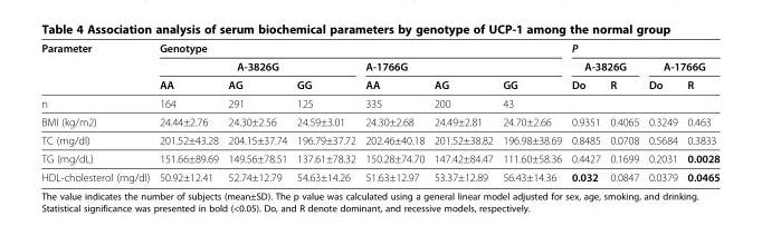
<table><thead><tr><td rowspan="3">Parameter</td><td colspan="6">Genotype</td><td colspan="4">P</td></tr><tr><td colspan="3">A-3826G</td><td colspan="3">A-1766G</td><td colspan="2">A-3826G</td><td colspan="2">A-1766G</td></tr><tr><td>AA</td><td>AG</td><td>GG</td><td>AA</td><td>AG</td><td>GG</td><td>Do</td><td>R</td><td>Do</td><td>R</td></tr></thead><tbody><tr><td>n</td><td>164</td><td>291</td><td>125</td><td>335</td><td>200</td><td>43</td><td></td><td></td><td></td><td></td></tr><tr><td>BMI (kg/m2)</td><td>24.44±2.76</td><td>24.30±2.56</td><td>24.59±3.01</td><td>24.30±2.68</td><td>24.49±2.81</td><td>24.70±2.66</td><td>0.9351</td><td>0.4065</td><td>0.3249</td><td>0.463</td></tr><tr><td>TC (mg/dl)</td><td>201.52±43.28</td><td>204.15±37.74</td><td>196.79±37.72</td><td>202.46±40.18</td><td>201.52±38.82</td><td>196.98±38.69</td><td>0.8485</td><td>0.0708</td><td>0.5684</td><td>0.3833</td></tr><tr><td>TG (mg/dL)</td><td>151.66±89.69</td><td>149.56±78.51</td><td>137.61±78.32</td><td>150.28±74.70</td><td>147.42±84.47</td><td>111.60±58.36</td><td>0.4427</td><td>0.1699</td><td>0.2031</td><td>0.0028</td></tr><tr><td>HDL-cholesterol (mg/dl)</td><td>50.92±12.41</td><td>52.74±12.79</td><td>54.63±14.26</td><td>51.63±12.97</td><td>53.37±12.89</td><td>56.43±14.36</td><td>0.032</td><td>0.0847</td><td>0.0379</td><td>0.0465</td></tr></tbody></table>